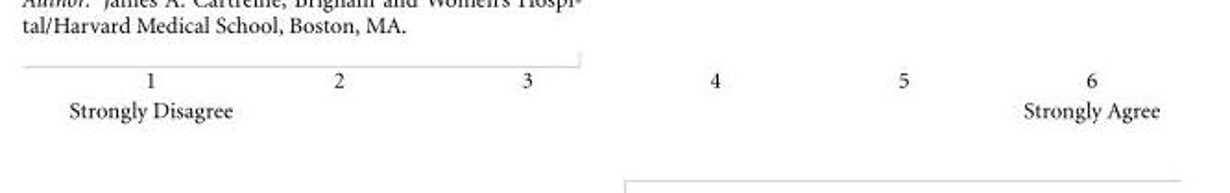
<table><tbody><tr><td>1</td><td>2</td><td>3</td><td>4</td><td>5</td><td>6</td></tr><tr><td>Strongly Disagree</td><td></td><td></td><td></td><td></td><td>Strongly Agree</td></tr></tbody></table>